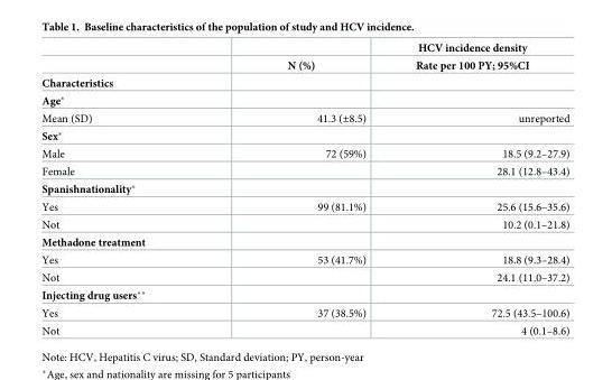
<table><thead><tr><td rowspan="2"></td><td rowspan="2">N (%)</td><td rowspan="2">HCV incidence density Rate per 100 PY; 95%CI</td></tr><tr></tr></thead><tbody><tr><td colspan="3">Characteristics</td></tr><tr><td colspan="3">Age*</td></tr><tr><td>Mean (SD)</td><td>41.3 (±8.5)</td><td>unreported</td></tr><tr><td colspan="3">Sex*</td></tr><tr><td>Male</td><td>72 (59%)</td><td>18.5 (9.2–27.9)</td></tr><tr><td>Female</td><td></td><td>28.1 (12.8–43.4)</td></tr><tr><td colspan="3">Spanishnationality*</td></tr><tr><td>Yes</td><td>99 (81.1%)</td><td>25.6 (15.6–35.6)</td></tr><tr><td>Not</td><td></td><td>10.2 (0.1–21.8)</td></tr><tr><td colspan="3">Methadone treatment</td></tr><tr><td>Yes</td><td>53 (41.7%)</td><td>18.8 (9.3–28.4)</td></tr><tr><td>Not</td><td></td><td>24.1 (11.0–37.2)</td></tr><tr><td colspan="3">Injecting drug users**</td></tr><tr><td>Yes</td><td>37 (38.5%)</td><td>72.5 (43.5–100.6)</td></tr><tr><td>Not</td><td></td><td>4 (0.1–8.6)</td></tr></tbody></table>